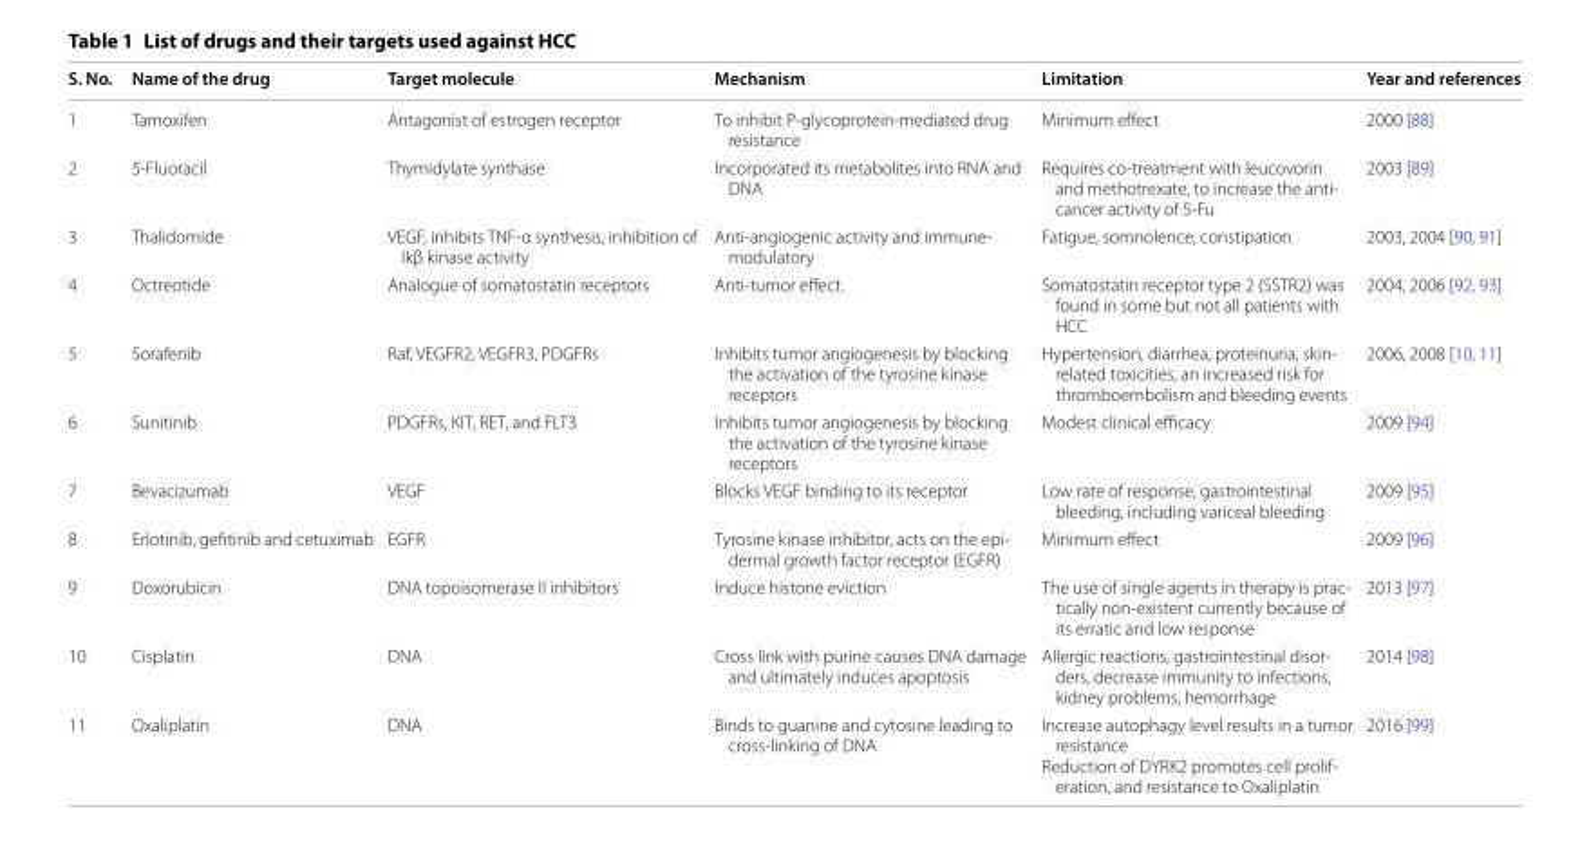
<table><thead><tr><td>S. No.</td><td>Name of the drug</td><td>Target molecule</td><td>Mechanism</td><td>Limitation</td><td>Year and references</td></tr></thead><tbody><tr><td>1</td><td>Tamoxifen</td><td>Antagonist of estrogen receptor</td><td>To inhibit P‑glycoprotein‑mediated drug resistance</td><td>Minimum effect</td><td>2000 [88]</td></tr><tr><td>2</td><td>5‑Fluoracil</td><td>Thymidylate synthase</td><td>Incorporated its metabolites into RNA and DNA</td><td>Requires co‑treatment with leucovorin and methotrexate, to increase the anti‑ cancer activity of 5‑Fu</td><td>2003 [89]</td></tr><tr><td>3</td><td>Thalidomide</td><td>VEGF, inhibits TNF‑α synthesis, inhibition of Ikβ kinase activity</td><td>Anti‑angiogenic activity and immune‑ modulatory</td><td>Fatigue, somnolence, constipation</td><td>2003, 2004 [90, 91]</td></tr><tr><td>4</td><td>Octreotide</td><td>Analogue of somatostatin receptors</td><td>Anti‑tumor effect.</td><td>Somatostatin receptor type 2 (SSTR2) was found in some but not all patients with HCC</td><td>2004, 2006 [92, 93]</td></tr><tr><td>5</td><td>Sorafenib</td><td>Raf, VEGFR2, VEGFR3, PDGFRs</td><td>Inhibits tumor angiogenesis by blocking the activation of the tyrosine kinase receptors</td><td>Hypertension, diarrhea, proteinuria, skin‑ related toxicities, an increased risk for thromboembolism and bleeding events</td><td>2006, 2008 [10, 11]</td></tr><tr><td>6</td><td>Sunitinib</td><td>PDGFRs, KIT, RET, and FLT3</td><td>Inhibits tumor angiogenesis by blocking the activation of the tyrosine kinase receptors</td><td>Modest clinical efficacy</td><td>2009 [94]</td></tr><tr><td>7</td><td>Bevacizumab</td><td>VEGF</td><td>Blocks VEGF binding to its receptor</td><td>Low rate of response, gastrointestinal bleeding, including variceal bleeding</td><td>2009 [95]</td></tr><tr><td>8</td><td>Erlotinib, gefitinib and cetuximab</td><td>EGFR</td><td>Tyrosine kinase inhibitor, acts on the epi‑ dermal growth factor receptor (EGFR)</td><td>Minimum effect</td><td>2009 [96]</td></tr><tr><td>9</td><td>Doxorubicin</td><td>DNA topoisomerase II inhibitors</td><td>Induce histone eviction</td><td>The use of single agents in therapy is prac‑ tically non‑existent currently because of its erratic and low response</td><td>2013 [97]</td></tr><tr><td>10</td><td>Cisplatin</td><td>DNA</td><td>Cross link with purine causes DNA damage and ultimately induces apoptosis</td><td>Allergic reactions, gastrointestinal disor‑ ders, decrease immunity to infections, kidney problems, hemorrhage</td><td>2014 [98]</td></tr><tr><td>11</td><td>Oxaliplatin</td><td>DNA</td><td>Binds to guanine and cytosine leading to cross‑linking of DNA</td><td>Increase autophagy level results in a tumor resistance Reduction of DYRK2 promotes cell prolif‑ eration, and resistance to Oxaliplatin</td><td>2016 [99]</td></tr></tbody></table>